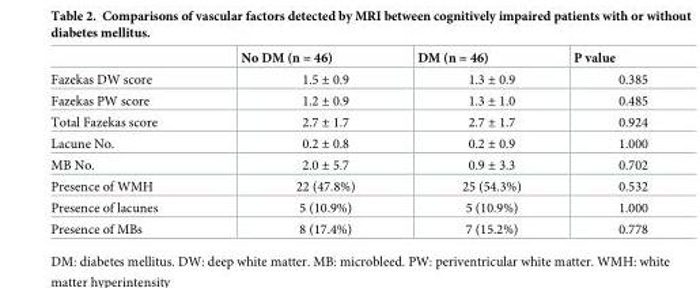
<table><thead><tr><td></td><td>No DM (n = 46)</td><td>DM (n = 46)</td><td>P value</td></tr></thead><tbody><tr><td>Fazekas DW score</td><td>1.5 ± 0.9</td><td>1.3 ± 0.9</td><td>0.385</td></tr><tr><td>Fazekas PW score</td><td>1.2 ± 0.9</td><td>1.3 ± 1.0</td><td>0.485</td></tr><tr><td>Total Fazekas score</td><td>2.7 ± 1.7</td><td>2.7 ± 1.7</td><td>0.924</td></tr><tr><td>Lacune No.</td><td>0.2 ± 0.8</td><td>0.2 ± 0.9</td><td>1.000</td></tr><tr><td>MB No.</td><td>2.0 ± 5.7</td><td>0.9 ± 3.3</td><td>0.702</td></tr><tr><td>Presence of WMH</td><td>22 (47.8%)</td><td>25 (54.3%)</td><td>0.532</td></tr><tr><td>Presence of lacunes</td><td>5 (10.9%)</td><td>5 (10.9%)</td><td>1.000</td></tr><tr><td>Presence of MBs</td><td>8 (17.4%)</td><td>7 (15.2%)</td><td>0.778</td></tr></tbody></table>